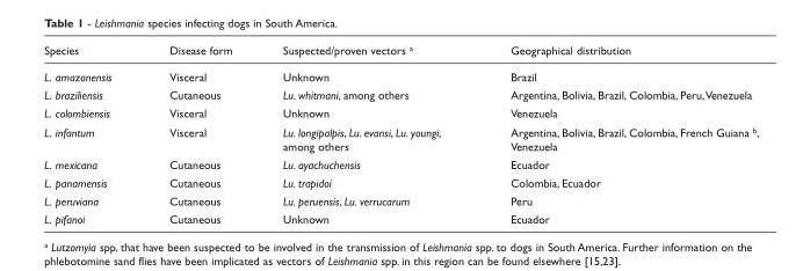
<table><thead><tr><td>Species</td><td>Disease form</td><td>Suspected/proven vectors <sup>a</sup></td><td>Geographical distribution</td></tr></thead><tbody><tr><td>L. amazonensis</td><td>Visceral</td><td>Unknown</td><td>Brazil</td></tr><tr><td>L. braziliensis</td><td>Cutaneous</td><td>Lu. whitmani, among others</td><td>Argentina, Bolivia, Brazil, Colombia, Peru,Venezuela</td></tr><tr><td>L. colombiensis</td><td>Visceral</td><td>Unknown</td><td>Venezuela</td></tr><tr><td>L. infantum</td><td>Visceral</td><td>Lu. longipalpis, Lu. evansi, Lu. youngi, among others</td><td>Argentina, Bolivia, Brazil, Colombia, French Guiana <sup>b</sup>, Venezuela</td></tr><tr><td>L. mexicana</td><td>Cutaneous</td><td>Lu. ayachuchensis</td><td>Ecuador</td></tr><tr><td>L. panamensis</td><td>Cutaneous</td><td>Lu. trapidoi</td><td>Colombia, Ecuador</td></tr><tr><td>L. peruviana</td><td>Cutaneous</td><td>Lu. peruensis, Lu. verrucarum</td><td>Peru</td></tr><tr><td>L. pifanoi</td><td>Cutaneous</td><td>Unknown</td><td>Ecuador</td></tr></tbody></table>